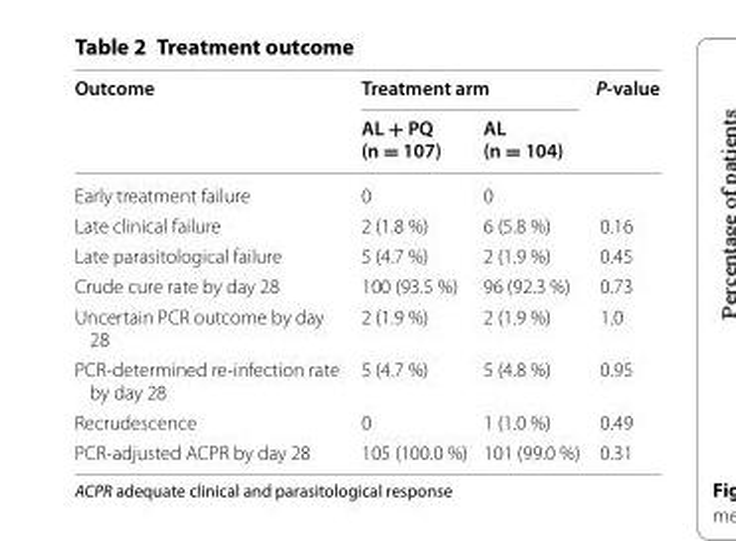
<table><thead><tr><td rowspan="2">Outcome</td><td colspan="2">Treatment arm</td><td rowspan="2">P‑value</td></tr><tr><td>AL + PQ (n = 107)</td><td>AL (n = 104)</td></tr></thead><tbody><tr><td>Early treatment failure</td><td>0</td><td>0</td><td></td></tr><tr><td>Late clinical failure</td><td>2 (1.8 %)</td><td>6 (5.8 %)</td><td>0.16</td></tr><tr><td>Late parasitological failure</td><td>5 (4.7 %)</td><td>2 (1.9 %)</td><td>0.45</td></tr><tr><td>Crude cure rate by day 28</td><td>100 (93.5 %)</td><td>96 (92.3 %)</td><td>0.73</td></tr><tr><td>Uncertain PCR outcome by day 28</td><td>2 (1.9 %)</td><td>2 (1.9 %)</td><td>1.0</td></tr><tr><td>PCR‑determined re‑infection rate by day 28</td><td>5 (4.7 %)</td><td>5 (4.8 %)</td><td>0.95</td></tr><tr><td>Recrudescence</td><td>0</td><td>1 (1.0 %)</td><td>0.49</td></tr><tr><td>PCR‑adjusted ACPR by day 28</td><td>105 (100.0 %)</td><td>101 (99.0 %)</td><td>0.31</td></tr></tbody></table>